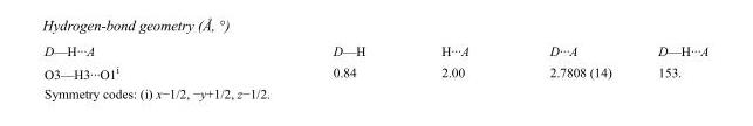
<table><tbody><tr><td>D—H···A</td><td>D—H</td><td>H···A</td><td>D···A</td><td>D—H···A</td></tr><tr><td>O3—H3···O1<sup>i</sup></td><td>0.84</td><td>2.00</td><td>2.7808 (14)</td><td>153.</td></tr></tbody></table>